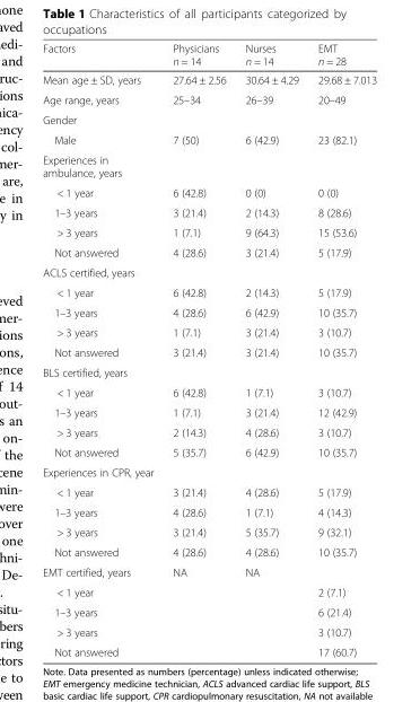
<table><thead><tr><td>Factors</td><td>Physicians n = 14</td><td>Nurses n = 14</td><td>EMT n = 28</td></tr></thead><tbody><tr><td>Mean age ± SD, years</td><td>27.64 ± 2.56</td><td>30.64 ± 4.29</td><td>29.68 ± 7.013</td></tr><tr><td>Age range, years</td><td>25–34</td><td>26–39</td><td>20–49</td></tr><tr><td colspan="4">Gender</td></tr><tr><td>Male</td><td>7 (50)</td><td>6 (42.9)</td><td>23 (82.1)</td></tr><tr><td colspan="4">Experiences in ambulance, years</td></tr><tr><td>&lt; 1 year</td><td>6 (42.8)</td><td>0 (0)</td><td>0 (0)</td></tr><tr><td>1–3 years</td><td>3 (21.4)</td><td>2 (14.3)</td><td>8 (28.6)</td></tr><tr><td>&gt; 3 years</td><td>1 (7.1)</td><td>9 (64.3)</td><td>15 (53.6)</td></tr><tr><td>Not answered</td><td>4 (28.6)</td><td>3 (21.4)</td><td>5 (17.9)</td></tr><tr><td colspan="4">ACLS certified, years</td></tr><tr><td>&lt; 1 year</td><td>6 (42.8)</td><td>2 (14.3)</td><td>5 (17.9)</td></tr><tr><td>1–3 years</td><td>4 (28.6)</td><td>6 (42.9)</td><td>10 (35.7)</td></tr><tr><td>&gt; 3 years</td><td>1 (7.1)</td><td>3 (21.4)</td><td>3 (10.7)</td></tr><tr><td>Not answered</td><td>3 (21.4)</td><td>3 (21.4)</td><td>10 (35.7)</td></tr><tr><td colspan="4">BLS certified, years</td></tr><tr><td>&lt; 1 year</td><td>6 (42.8)</td><td>1 (7.1)</td><td>3 (10.7)</td></tr><tr><td>1–3 years</td><td>1 (7.1)</td><td>3 (21.4)</td><td>12 (42.9)</td></tr><tr><td>&gt; 3 years</td><td>2 (14.3)</td><td>4 (28.6)</td><td>3 (10.7)</td></tr><tr><td>Not answered</td><td>5 (35.7)</td><td>6 (42.9)</td><td>10 (35.7)</td></tr><tr><td colspan="4">Experiences in CPR, year</td></tr><tr><td>&lt; 1 year</td><td>3 (21.4)</td><td>4 (28.6)</td><td>5 (17.9)</td></tr><tr><td>1–3 years</td><td>4 (28.6)</td><td>1 (7.1)</td><td>4 (14.3)</td></tr><tr><td>&gt; 3 years</td><td>3 (21.4)</td><td>5 (35.7)</td><td>9 (32.1)</td></tr><tr><td>Not answered</td><td>4 (28.6)</td><td>4 (28.6)</td><td>10 (35.7)</td></tr><tr><td>EMT certified, years</td><td>NA</td><td>NA</td><td></td></tr><tr><td>&lt; 1 year</td><td></td><td></td><td>2 (7.1)</td></tr><tr><td>1–3 years</td><td></td><td></td><td>6 (21.4)</td></tr><tr><td>&gt; 3 years</td><td></td><td></td><td>3 (10.7)</td></tr><tr><td>Not answered</td><td></td><td></td><td>17 (60.7)</td></tr></tbody></table>